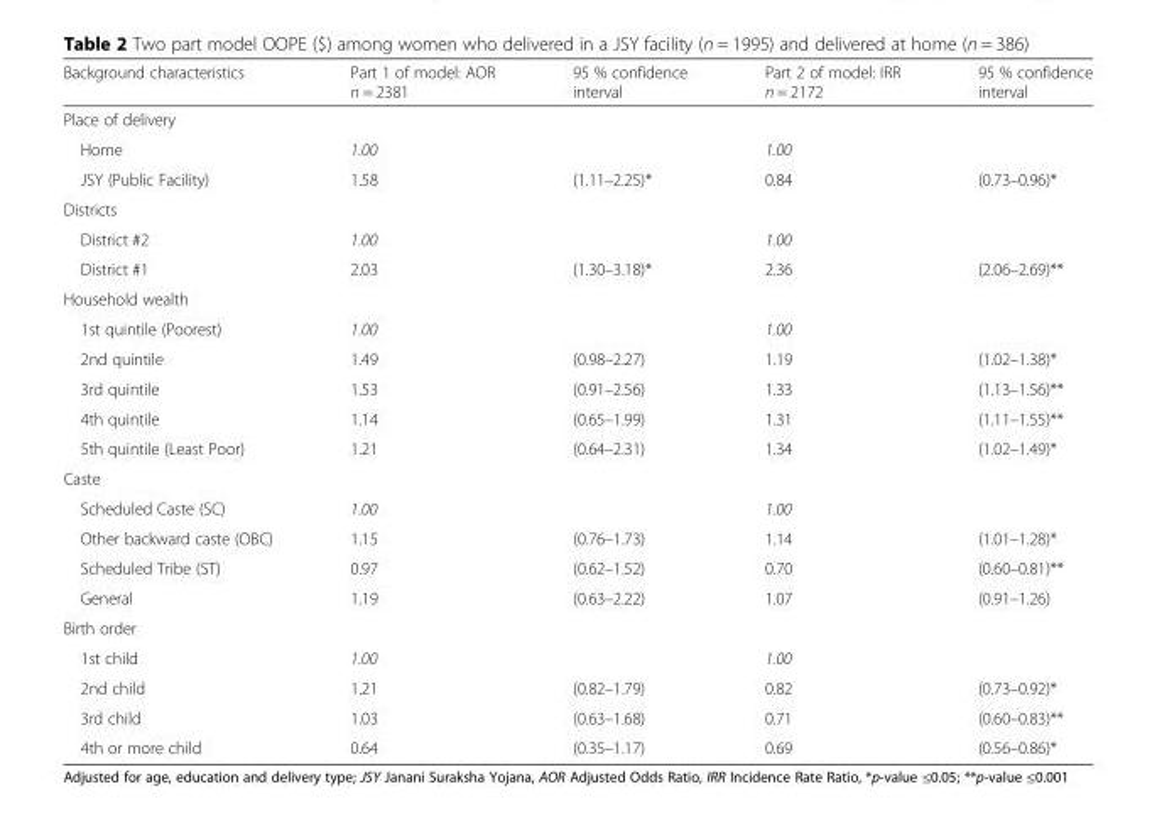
<table><thead><tr><td>Background characteristics</td><td>Part 1 of model: AOR n = 2381</td><td>95 % confidence interval</td><td>Part 2 of model: IRR n = 2172</td><td>95 % confidence interval</td></tr></thead><tbody><tr><td colspan="5">Place of delivery</td></tr><tr><td>Home</td><td>1.00</td><td></td><td>1.00</td><td></td></tr><tr><td>JSY (Public Facility)</td><td>1.58</td><td>(1.11–2.25)*</td><td>0.84</td><td>(0.73–0.96)*</td></tr><tr><td colspan="5">Districts</td></tr><tr><td>District #2</td><td>1.00</td><td></td><td>1.00</td><td></td></tr><tr><td>District #1</td><td>2.03</td><td>(1.30–3.18)*</td><td>2.36</td><td>(2.06–2.69)**</td></tr><tr><td colspan="5">Household wealth</td></tr><tr><td>1st quintile (Poorest)</td><td>1.00</td><td></td><td>1.00</td><td></td></tr><tr><td>2nd quintile</td><td>1.49</td><td>(0.98–2.27)</td><td>1.19</td><td>(1.02–1.38)*</td></tr><tr><td>3rd quintile</td><td>1.53</td><td>(0.91–2.56)</td><td>1.33</td><td>(1.13–1.56)**</td></tr><tr><td>4th quintile</td><td>1.14</td><td>(0.65–1.99)</td><td>1.31</td><td>(1.11–1.55)**</td></tr><tr><td>5th quintile (Least Poor)</td><td>1.21</td><td>(0.64–2.31)</td><td>1.34</td><td>(1.02–1.49)*</td></tr><tr><td colspan="5">Caste</td></tr><tr><td>Scheduled Caste (SC)</td><td>1.00</td><td></td><td>1.00</td><td></td></tr><tr><td>Other backward caste (OBC)</td><td>1.15</td><td>(0.76–1.73)</td><td>1.14</td><td>(1.01–1.28)*</td></tr><tr><td>Scheduled Tribe (ST)</td><td>0.97</td><td>(0.62–1.52)</td><td>0.70</td><td>(0.60–0.81)**</td></tr><tr><td>General</td><td>1.19</td><td>(0.63–2.22)</td><td>1.07</td><td>(0.91–1.26)</td></tr><tr><td colspan="5">Birth order</td></tr><tr><td>1st child</td><td>1.00</td><td></td><td>1.00</td><td></td></tr><tr><td>2nd child</td><td>1.21</td><td>(0.82–1.79)</td><td>0.82</td><td>(0.73–0.92)*</td></tr><tr><td>3rd child</td><td>1.03</td><td>(0.63–1.68)</td><td>0.71</td><td>(0.60–0.83)**</td></tr><tr><td>4th or more child</td><td>0.64</td><td>(0.35–1.17)</td><td>0.69</td><td>(0.56–0.86)*</td></tr></tbody></table>